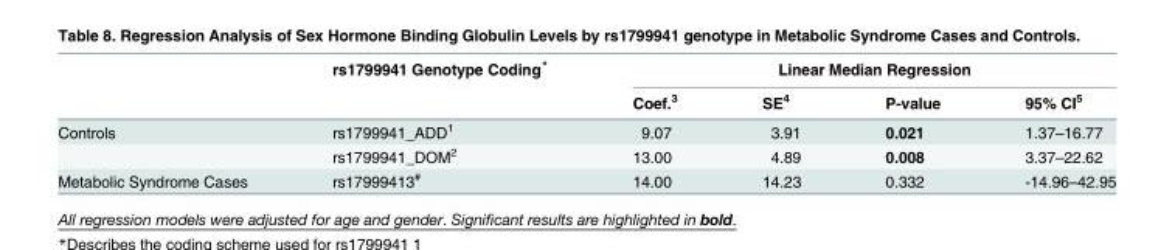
<table><thead><tr><td rowspan="2"></td><td rowspan="2">rs1799941 Genotype Coding*</td><td colspan="4">Linear Median Regression</td></tr><tr><td>Coef.<sup>3</sup></td><td>SE<sup>4</sup></td><td>P-value</td><td>95% CI<sup>5</sup></td></tr></thead><tbody><tr><td rowspan="2">Controls</td><td>rs1799941_ADD<sup>1</sup></td><td>9.07</td><td>3.91</td><td>0.021</td><td>1.37–16.77</td></tr><tr><td>rs1799941_DOM<sup>2</sup></td><td>13.00</td><td>4.89</td><td>0.008</td><td>3.37–22.62</td></tr><tr><td>Metabolic Syndrome Cases</td><td>rs17999413<sup>#</sup></td><td>14.00</td><td>14.23</td><td>0.332</td><td>-14.96–42.95</td></tr></tbody></table>